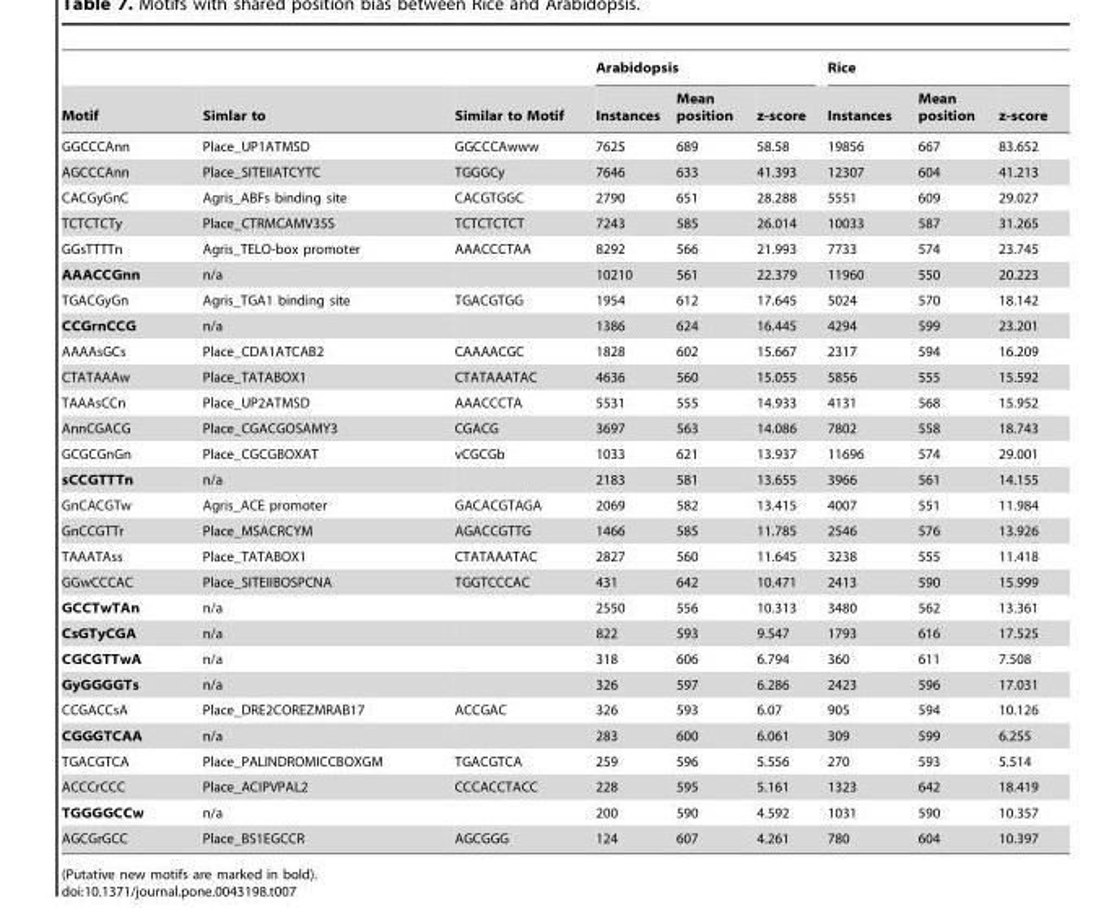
<table><thead><tr><td rowspan="2">Motif</td><td rowspan="2">Simlar to</td><td rowspan="2">Similar to Motif</td><td colspan="3">Arabidopsis</td><td colspan="3">Rice</td></tr><tr><td>Instances</td><td>Mean position</td><td>z-score</td><td>Instances</td><td>Mean position</td><td>z-score</td></tr></thead><tbody><tr><td>GGCCCAnn</td><td>Place_UP1ATMSD</td><td>GGCCCAwww</td><td>7625</td><td>689</td><td>58.58</td><td>19856</td><td>667</td><td>83.652</td></tr><tr><td>AGCCCAnn</td><td>Place_SITEIIATCYTC</td><td>TGGGCy</td><td>7646</td><td>633</td><td>41.393</td><td>12307</td><td>604</td><td>41.213</td></tr><tr><td>CACGyGnC</td><td>Agris_ABFs binding site</td><td>CACGTGGC</td><td>2790</td><td>651</td><td>28.288</td><td>5551</td><td>609</td><td>29.027</td></tr><tr><td>TCTCTCTy</td><td>Place_CTRMCAMV35S</td><td>TCTCTCTCT</td><td>7243</td><td>585</td><td>26.014</td><td>10033</td><td>587</td><td>31.265</td></tr><tr><td>GGsTTTTn</td><td>Agris_TELO-box promoter</td><td>AAACCCTAA</td><td>8292</td><td>566</td><td>21.993</td><td>7733</td><td>574</td><td>23.745</td></tr><tr><td>AAACCGnn</td><td>n/a</td><td></td><td>10210</td><td>561</td><td>22.379</td><td>11960</td><td>550</td><td>20.223</td></tr><tr><td>TGACGyGn</td><td>Agris_TGA1 binding site</td><td>TGACGTGG</td><td>1954</td><td>612</td><td>17.645</td><td>5024</td><td>570</td><td>18.142</td></tr><tr><td>CCGrnCCG</td><td>n/a</td><td></td><td>1386</td><td>624</td><td>16.445</td><td>4294</td><td>599</td><td>23.201</td></tr><tr><td>AAAAsGCs</td><td>Place_CDA1ATCAB2</td><td>CAAAACGC</td><td>1828</td><td>602</td><td>15.667</td><td>2317</td><td>594</td><td>16.209</td></tr><tr><td>CTATAAAw</td><td>Place_TATABOX1</td><td>CTATAAATAC</td><td>4636</td><td>560</td><td>15.055</td><td>5856</td><td>555</td><td>15.592</td></tr><tr><td>TAAAsCCn</td><td>Place_UP2ATMSD</td><td>AAACCCTA</td><td>5531</td><td>555</td><td>14.933</td><td>4131</td><td>568</td><td>15.952</td></tr><tr><td>AnnCGACG</td><td>Place_CGACGOSAMY3</td><td>CGACG</td><td>3697</td><td>563</td><td>14.086</td><td>7802</td><td>558</td><td>18.743</td></tr><tr><td>GCGCGnGn</td><td>Place_CGCGBOXAT</td><td>vCGCGb</td><td>1033</td><td>621</td><td>13.937</td><td>11696</td><td>574</td><td>29.001</td></tr><tr><td>sCCGTTTn</td><td>n/a</td><td></td><td>2183</td><td>581</td><td>13.655</td><td>3966</td><td>561</td><td>14.155</td></tr><tr><td>GnCACGTw</td><td>Agris_ACE promoter</td><td>GACACGTAGA</td><td>2069</td><td>582</td><td>13.415</td><td>4007</td><td>551</td><td>11.984</td></tr><tr><td>GnCCGTTr</td><td>Place_MSACRCYM</td><td>AGACCGTTG</td><td>1466</td><td>585</td><td>11.785</td><td>2546</td><td>576</td><td>13.926</td></tr><tr><td>TAAATAss</td><td>Place_TATABOX1</td><td>CTATAAATAC</td><td>2827</td><td>560</td><td>11.645</td><td>3238</td><td>555</td><td>11.418</td></tr><tr><td>GGwCCCAC</td><td>Place_SITEIIBOSPCNA</td><td>TGGTCCCAC</td><td>431</td><td>642</td><td>10.471</td><td>2413</td><td>590</td><td>15.999</td></tr><tr><td>GCCTwTAn</td><td>n/a</td><td></td><td>2550</td><td>556</td><td>10.313</td><td>3480</td><td>562</td><td>13.361</td></tr><tr><td>CsGTyCGA</td><td>n/a</td><td></td><td>822</td><td>593</td><td>9.547</td><td>1793</td><td>616</td><td>17.525</td></tr><tr><td>CGCGTTwA</td><td>n/a</td><td></td><td>318</td><td>606</td><td>6.794</td><td>360</td><td>611</td><td>7.508</td></tr><tr><td>GyGGGGTs</td><td>n/a</td><td></td><td>326</td><td>597</td><td>6.286</td><td>2423</td><td>596</td><td>17.031</td></tr><tr><td>CCGACCsA</td><td>Place_DRE2COREZMRAB17</td><td>ACCGAC</td><td>326</td><td>593</td><td>6.07</td><td>905</td><td>594</td><td>10.126</td></tr><tr><td>CGGGTCAA</td><td>n/a</td><td></td><td>283</td><td>600</td><td>6.061</td><td>309</td><td>599</td><td>6.255</td></tr><tr><td>TGACGTCA</td><td>Place_PALINDROMICCBOXGM</td><td>TGACGTCA</td><td>259</td><td>596</td><td>5.556</td><td>270</td><td>593</td><td>5.514</td></tr><tr><td>ACCCrCCC</td><td>Place_ACIPVPAL2</td><td>CCCACCTACC</td><td>228</td><td>595</td><td>5.161</td><td>1323</td><td>642</td><td>18.419</td></tr><tr><td>TGGGGCCw</td><td>n/a</td><td></td><td>200</td><td>590</td><td>4.592</td><td>1031</td><td>590</td><td>10.357</td></tr><tr><td>AGCGrGCC</td><td>Place_BS1EGCCR</td><td>AGCGGG</td><td>124</td><td>607</td><td>4.261</td><td>780</td><td>604</td><td>10.397</td></tr></tbody></table>